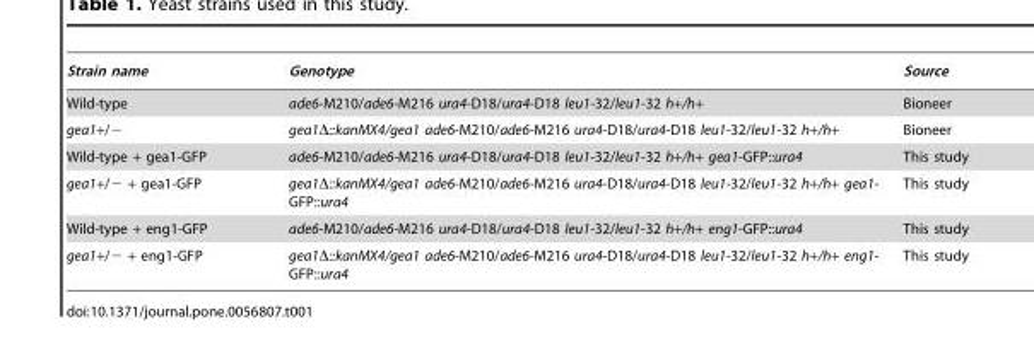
<table><thead><tr><td>Strain name</td><td>Genotype</td><td>Source</td></tr></thead><tbody><tr><td>Wild-type</td><td>ade6-M210/ade6-M216 ura4-D18/ura4-D18 leu1-32/leu1-32 h+/h+</td><td>Bioneer</td></tr><tr><td>gea1+/−</td><td>gea1Δ::kanMX4/gea1 ade6-M210/ade6-M216 ura4-D18/ura4-D18 leu1-32/leu1-32 h+/h+</td><td>Bioneer</td></tr><tr><td>Wild-type + gea1-GFP</td><td>ade6-M210/ade6-M216 ura4-D18/ura4-D18 leu1-32/leu1-32 h+/h+ gea1-GFP::ura4</td><td>This study</td></tr><tr><td>gea1+/− + gea1-GFP</td><td>gea1Δ::kanMX4/gea1 ade6-M210/ade6-M216 ura4-D18/ura4-D18 leu1-32/leu1-32 h+/h+ gea1- GFP::ura4</td><td>This study</td></tr><tr><td>Wild-type + eng1-GFP</td><td>ade6-M210/ade6-M216 ura4-D18/ura4-D18 leu1-32/leu1-32 h+/h+ eng1-GFP::ura4</td><td>This study</td></tr><tr><td>gea1+/− + eng1-GFP</td><td>gea1Δ::kanMX4/gea1 ade6-M210/ade6-M216 ura4-D18/ura4-D18 leu1-32/leu1-32 h+/h+ eng1- GFP::ura4</td><td>This study</td></tr></tbody></table>